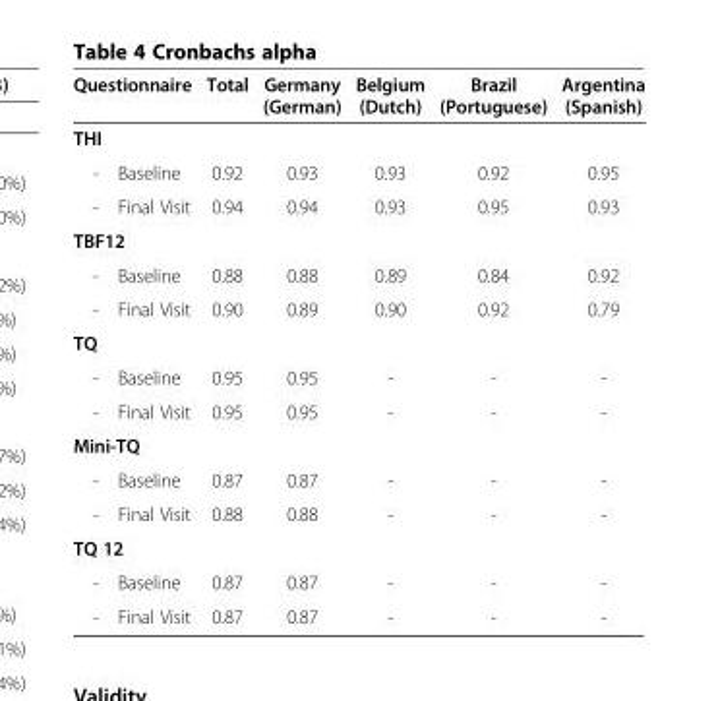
<table><thead><tr><td>Questionnaire</td><td>Total</td><td>Germany (German)</td><td>Belgium (Dutch)</td><td>Brazil (Portuguese)</td><td>Argentina (Spanish)</td></tr></thead><tbody><tr><td colspan="6">THI</td></tr><tr><td>- Baseline</td><td>0.92</td><td>0.93</td><td>0.93</td><td>0.92</td><td>0.95</td></tr><tr><td>- Final Visit</td><td>0.94</td><td>0.94</td><td>0.93</td><td>0.95</td><td>0.93</td></tr><tr><td colspan="6">TBF12</td></tr><tr><td>- Baseline</td><td>0.88</td><td>0.88</td><td>0.89</td><td>0.84</td><td>0.92</td></tr><tr><td>- Final Visit</td><td>0.90</td><td>0.89</td><td>0.90</td><td>0.92</td><td>0.79</td></tr><tr><td colspan="6">TQ</td></tr><tr><td>- Baseline</td><td>0.95</td><td>0.95</td><td>-</td><td>-</td><td>-</td></tr><tr><td>- Final Visit</td><td>0.95</td><td>0.95</td><td>-</td><td>-</td><td>-</td></tr><tr><td colspan="6">Mini-TQ</td></tr><tr><td>- Baseline</td><td>0.87</td><td>0.87</td><td>-</td><td>-</td><td>-</td></tr><tr><td>- Final Visit</td><td>0.88</td><td>0.88</td><td>-</td><td>-</td><td>-</td></tr><tr><td colspan="6">TQ 12</td></tr><tr><td>- Baseline</td><td>0.87</td><td>0.87</td><td>-</td><td>-</td><td>-</td></tr><tr><td>- Final Visit</td><td>0.87</td><td>0.87</td><td>-</td><td>-</td><td>-</td></tr></tbody></table>